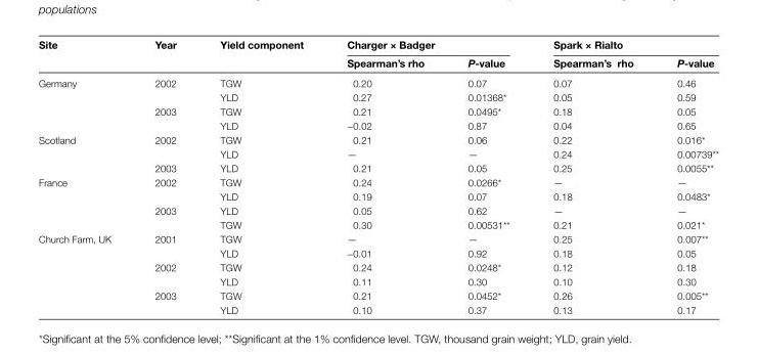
<table><thead><tr><td rowspan="2">Site</td><td rowspan="2">Year</td><td rowspan="2">Yield component</td><td colspan="2">Charger × Badger</td><td colspan="2">Spark × Rialto</td></tr><tr><td>Spearman’s rho</td><td>P-value</td><td>Spearman’s rho</td><td>P-value</td></tr></thead><tbody><tr><td rowspan="4">Germany</td><td>2002</td><td>TGW</td><td>0.20</td><td>0.07</td><td>0.07</td><td>0.46</td></tr><tr><td></td><td>YLD</td><td>0.27</td><td>0.01368*</td><td>0.05</td><td>0.59</td></tr><tr><td>2003</td><td>TGW</td><td>0.21</td><td>0.0495*</td><td>0.18</td><td>0.05</td></tr><tr><td></td><td>YLD</td><td>−0.02</td><td>0.87</td><td>0.04</td><td>0.65</td></tr><tr><td rowspan="3">Scotland</td><td>2002</td><td>TGW</td><td>0.21</td><td>0.06</td><td>0.22</td><td>0.016*</td></tr><tr><td></td><td>YLD</td><td>—</td><td>—</td><td>0.24</td><td>0.00739**</td></tr><tr><td>2003</td><td>YLD</td><td>0.21</td><td>0.05</td><td>0.25</td><td>0.0055**</td></tr><tr><td rowspan="4">France</td><td>2002</td><td>TGW</td><td>0.24</td><td>0.0266*</td><td>—</td><td>—</td></tr><tr><td></td><td>YLD</td><td>0.19</td><td>0.07</td><td>0.18</td><td>0.0483*</td></tr><tr><td>2003</td><td>YLD</td><td>0.05</td><td>0.62</td><td>—</td><td>—</td></tr><tr><td></td><td>TGW</td><td>0.30</td><td>0.00531**</td><td>0.21</td><td>0.021*</td></tr><tr><td rowspan="6">Church Farm, UK</td><td>2001</td><td>TGW</td><td>—</td><td>—</td><td>0.25</td><td>0.007**</td></tr><tr><td></td><td>YLD</td><td>−0.01</td><td>0.92</td><td>0.18</td><td>0.05</td></tr><tr><td>2002</td><td>TGW</td><td>0.24</td><td>0.0248*</td><td>0.12</td><td>0.18</td></tr><tr><td></td><td>YLD</td><td>0.11</td><td>0.30</td><td>0.10</td><td>0.30</td></tr><tr><td>2003</td><td>TGW</td><td>0.21</td><td>0.0452*</td><td>0.26</td><td>0.005**</td></tr><tr><td></td><td>YLD</td><td>0.10</td><td>0.37</td><td>0.13</td><td>0.17</td></tr></tbody></table>